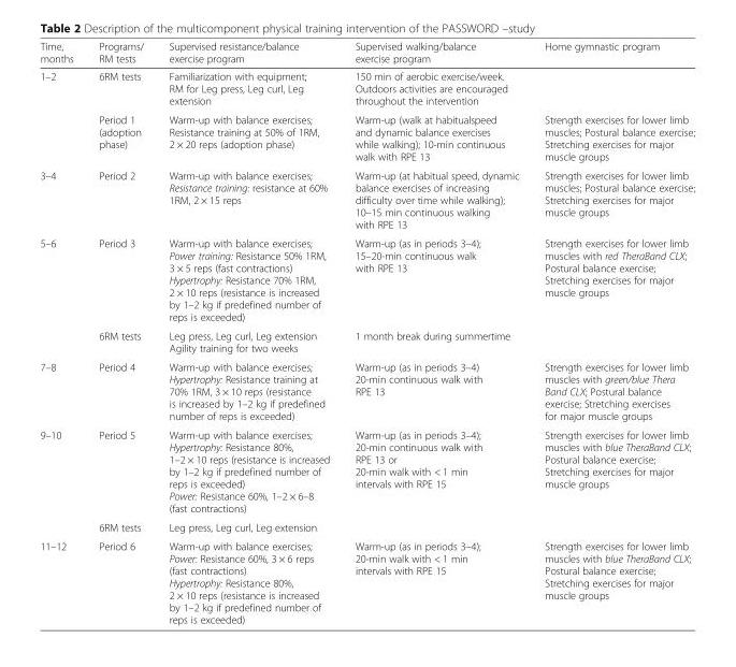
<table><thead><tr><td>Time, months</td><td>Programs/ RM tests</td><td>Supervised resistance/balance exercise program</td><td>Supervised walking/balance exercise program</td><td>Home gymnastic program</td></tr></thead><tbody><tr><td rowspan="2">1–2</td><td>6RM tests</td><td>Familiarization with equipment; RM for Leg press, Leg curl, Leg extension</td><td colspan="2">150 min of aerobic exercise/week. Outdoors activities are encouraged throughout the intervention</td></tr><tr><td>Period 1 (adoption phase)</td><td>Warm-up with balance exercises; Resistance training at 50% of 1RM, 2 × 20 reps (adoption phase)</td><td>Warm-up (walk at habitualspeed and dynamic balance exercises while walking); 10-min continuous walk with RPE 13</td><td>Strength exercises for lower limb muscles; Postural balance exercise; Stretching exercises for major muscle groups</td></tr><tr><td>3–4</td><td>Period 2</td><td>Warm-up with balance exercises; Resistance training: resistance at 60% 1RM, 2 × 15 reps</td><td>Warm-up (at habitual speed, dynamic balance exercises of increasing difficulty over time while walking); 10–15 min continuous walking with RPE 13</td><td>Strength exercises for lower limb muscles; Postural balance exercise; Stretching exercises for major muscle groups</td></tr><tr><td rowspan="2">5–6</td><td>Period 3</td><td>Warm-up with balance exercises; Power training: Resistance 50% 1RM, 3 × 5 reps (fast contractions) Hypertrophy: Resistance 70% 1RM, 2 × 10 reps (resistance is increased by 1–2 kg if predefined number of reps is exceeded)</td><td>Warm-up (as in periods 3–4); 15–20-min continuous walk with RPE 13</td><td>Strength exercises for lower limb muscles with red TheraBand CLX; Postural balance exercise; Stretching exercises for major muscle groups</td></tr><tr><td>6RM tests</td><td>Leg press, Leg curl, Leg extension Agility training for two weeks</td><td>1 month break during summertime</td><td></td></tr><tr><td>7–8</td><td>Period 4</td><td>Warm-up with balance exercises; Hypertrophy: Resistance training at 70% 1RM, 3 × 10 reps (resistance is increased by 1–2 kg if predefined number of reps is exceeded)</td><td>Warm-up (as in periods 3–4) 20-min continuous walk with RPE 13</td><td>Strength exercises for lower limb muscles with green/blue Thera Band CLX; Postural balance exercise; Stretching exercises for major muscle groups</td></tr><tr><td rowspan="2">9–10</td><td>Period 5</td><td>Warm-up with balance exercises; Hypertrophy: Resistance 80%, 1–2 × 10 reps (resistance is increased by 1–2 kg if predefined number of reps is exceeded) Power: Resistance 60%, 1–2 × 6–8 (fast contractions)</td><td>Warm-up (as in periods 3–4); 20-min continuous walk with RPE 13 or 20-min walk with &lt; 1 min intervals with RPE 15</td><td>Strength exercises for lower limb muscles with blue TheraBand CLX; Postural balance exercise; Stretching exercises for major muscle groups</td></tr><tr><td>6RM tests</td><td>Leg press, Leg curl, Leg extension</td><td></td><td></td></tr><tr><td>11–12</td><td>Period 6</td><td>Warm-up with balance exercises; Power: Resistance 60%, 3 × 6 reps (fast contractions) Hypertrophy: Resistance 80%, 2 × 10 reps (resistance is increased by 1–2 kg if predefined number of reps is exceeded)</td><td>Warm-up (as in periods 3–4); 20-min walk with &lt; 1 min intervals with RPE 15</td><td>Strength exercises for lower limb muscles with blue TheraBand CLX; Postural balance exercise; Stretching exercises for major muscle groups</td></tr></tbody></table>